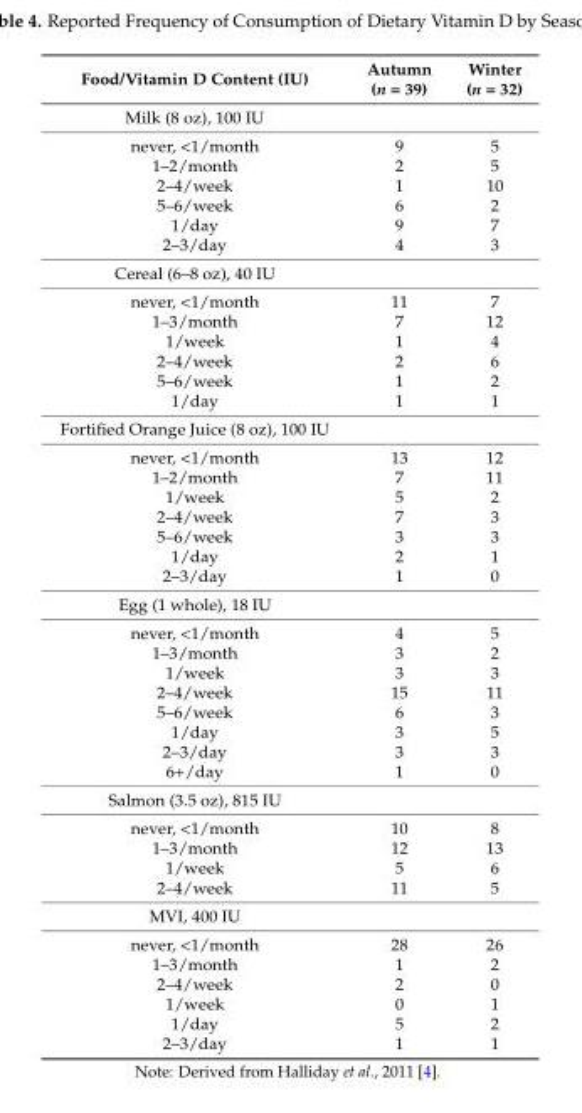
<table><thead><tr><td>Food/Vitamin D Content (IU)</td><td>Autumn (n = 39)</td><td>Winter (n = 32)</td></tr></thead><tbody><tr><td colspan="3">Milk (8 oz), 100 IU</td></tr><tr><td>never, &lt;1/month</td><td>9</td><td>5</td></tr><tr><td>1–2/month</td><td>2</td><td>5</td></tr><tr><td>2–4/week</td><td>1</td><td>10</td></tr><tr><td>5–6/week</td><td>6</td><td>2</td></tr><tr><td>1/day</td><td>9</td><td>7</td></tr><tr><td>2–3/day</td><td>4</td><td>3</td></tr><tr><td colspan="3">Cereal (6–8 oz), 40 IU</td></tr><tr><td>never, &lt;1/month</td><td>11</td><td>7</td></tr><tr><td>1–3/month</td><td>7</td><td>12</td></tr><tr><td>1/week</td><td>1</td><td>4</td></tr><tr><td>2–4/week</td><td>2</td><td>6</td></tr><tr><td>5–6/week</td><td>1</td><td>2</td></tr><tr><td>1/day</td><td>1</td><td>1</td></tr><tr><td colspan="3">Fortified Orange Juice (8 oz), 100 IU</td></tr><tr><td>never, &lt;1/month</td><td>13</td><td>12</td></tr><tr><td>1–2/month</td><td>7</td><td>11</td></tr><tr><td>1/week</td><td>5</td><td>2</td></tr><tr><td>2–4/week</td><td>7</td><td>3</td></tr><tr><td>5–6/week</td><td>3</td><td>3</td></tr><tr><td>1/day</td><td>2</td><td>1</td></tr><tr><td>2–3/day</td><td>1</td><td>0</td></tr><tr><td colspan="3">Egg (1 whole), 18 IU</td></tr><tr><td>never, &lt;1/month</td><td>4</td><td>5</td></tr><tr><td>1–3/month</td><td>3</td><td>2</td></tr><tr><td>1/week</td><td>3</td><td>3</td></tr><tr><td>2–4/week</td><td>15</td><td>11</td></tr><tr><td>5–6/week</td><td>6</td><td>3</td></tr><tr><td>1/day</td><td>3</td><td>5</td></tr><tr><td>2–3/day</td><td>3</td><td>3</td></tr><tr><td>6+/day</td><td>1</td><td>0</td></tr><tr><td colspan="3">Salmon (3.5 oz), 815 IU</td></tr><tr><td>never, &lt;1/month</td><td>10</td><td>8</td></tr><tr><td>1–3/month</td><td>12</td><td>13</td></tr><tr><td>1/week</td><td>5</td><td>6</td></tr><tr><td>2–4/week</td><td>11</td><td>5</td></tr><tr><td colspan="3">MVI, 400 IU</td></tr><tr><td>never, &lt;1/month</td><td>28</td><td>26</td></tr><tr><td>1–3/month</td><td>1</td><td>2</td></tr><tr><td>2–4/week</td><td>2</td><td>0</td></tr><tr><td>1/week</td><td>0</td><td>1</td></tr><tr><td>1/day</td><td>5</td><td>2</td></tr><tr><td>2–3/day</td><td>1</td><td>1</td></tr></tbody></table>